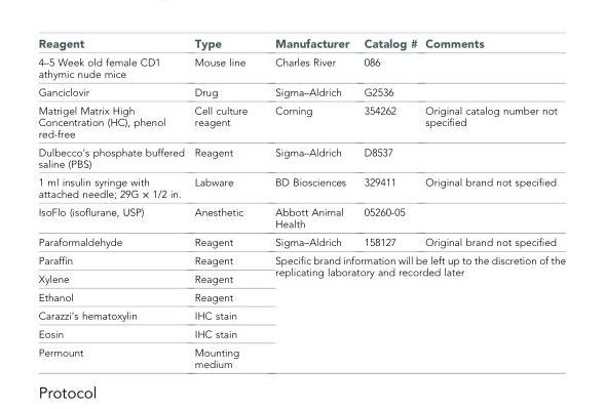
<table><thead><tr><td>Reagent</td><td>Type</td><td>Manufacturer</td><td>Catalog #</td><td>Comments</td></tr></thead><tbody><tr><td>4–5 Week old female CD1 athymic nude mice</td><td>Mouse line</td><td>Charles River</td><td>086</td><td></td></tr><tr><td>Ganciclovir</td><td>Drug</td><td>Sigma–Aldrich</td><td>G2536</td><td></td></tr><tr><td>Matrigel Matrix High Concentration (HC), phenol red-free</td><td>Cell culture reagent</td><td>Corning</td><td>354262</td><td>Original catalog number not specified</td></tr><tr><td>Dulbecco’s phosphate buffered saline (PBS)</td><td>Reagent</td><td>Sigma–Aldrich</td><td>D8537</td><td></td></tr><tr><td>1 ml insulin syringe with attached needle; 29G × 1/2 in.</td><td>Labware</td><td>BD Biosciences</td><td>329411</td><td>Original brand not specified</td></tr><tr><td>IsoFlo (isoflurane, USP)</td><td>Anesthetic</td><td>Abbott Animal Health</td><td>05260-05</td><td></td></tr><tr><td>Paraformaldehyde</td><td>Reagent</td><td>Sigma–Aldrich</td><td>158127</td><td>Original brand not specified</td></tr><tr><td>Paraffin</td><td>Reagent</td><td rowspan="6" colspan="3">Specific brand information will be left up to the discretion of the replicating laboratory and recorded later</td></tr><tr><td>Xylene</td><td>Reagent</td></tr><tr><td>Ethanol</td><td>Reagent</td></tr><tr><td>Carazzi’s hematoxylin</td><td>IHC stain</td></tr><tr><td>Eosin</td><td>IHC stain</td></tr><tr><td>Permount</td><td>Mounting medium</td></tr></tbody></table>